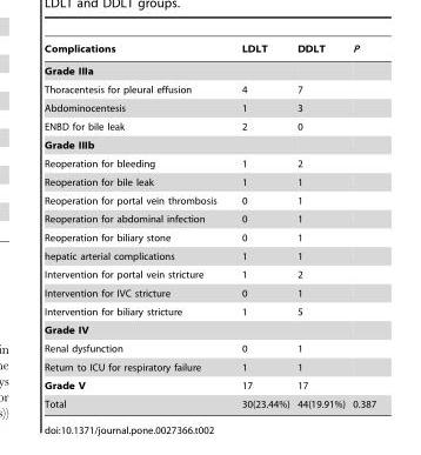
<table><thead><tr><td>Complications</td><td>LDLT</td><td>DDLT</td><td>P</td></tr></thead><tbody><tr><td colspan="4">Grade IIIa</td></tr><tr><td>Thoracentesis for pleural effusion</td><td>4</td><td>7</td><td></td></tr><tr><td>Abdominocentesis</td><td>1</td><td>3</td><td></td></tr><tr><td>ENBD for bile leak</td><td>2</td><td>0</td><td></td></tr><tr><td colspan="4">Grade IIIb</td></tr><tr><td>Reoperation for bleeding</td><td>1</td><td>2</td><td></td></tr><tr><td>Reoperation for bile leak</td><td>1</td><td>1</td><td></td></tr><tr><td>Reoperation for portal vein thrombosis</td><td>0</td><td>1</td><td></td></tr><tr><td>Reoperation for abdominal infection</td><td>0</td><td>1</td><td></td></tr><tr><td>Reoperation for biliary stone</td><td>0</td><td>1</td><td></td></tr><tr><td>hepatic arterial complications</td><td>1</td><td>1</td><td></td></tr><tr><td>Intervention for portal vein stricture</td><td>1</td><td>2</td><td></td></tr><tr><td>Intervention for IVC stricture</td><td>0</td><td>1</td><td></td></tr><tr><td>Intervention for biliary stricture</td><td>1</td><td>5</td><td></td></tr><tr><td colspan="4">Grade IV</td></tr><tr><td>Renal dysfunction</td><td>0</td><td>1</td><td></td></tr><tr><td>Return to ICU for respiratory failure</td><td>1</td><td>1</td><td></td></tr><tr><td>Grade V</td><td>17</td><td>17</td><td></td></tr><tr><td>Total</td><td>30(23.44%)</td><td>44(19.91%)</td><td>0.387</td></tr></tbody></table>